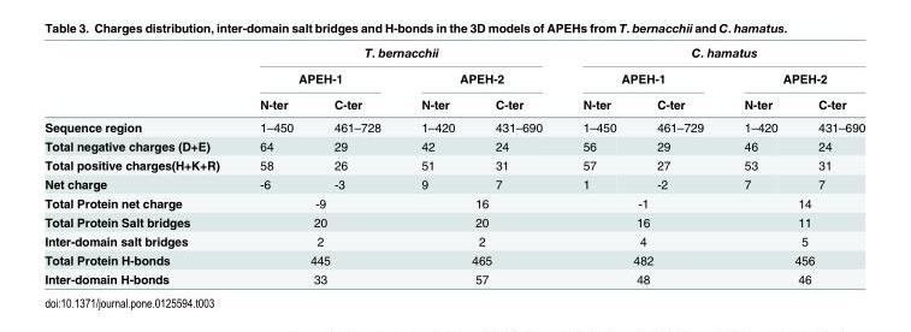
<table><thead><tr><td rowspan="3"></td><td colspan="4">T. bernacchii</td><td colspan="4">C. hamatus</td></tr><tr><td colspan="2">APEH-1</td><td colspan="2">APEH-2</td><td colspan="2">APEH-1</td><td colspan="2">APEH-2</td></tr><tr><td>N-ter</td><td>C-ter</td><td>N-ter</td><td>C-ter</td><td>N-ter</td><td>C-ter</td><td>N-ter</td><td>C-ter</td></tr></thead><tbody><tr><td>Sequence region</td><td>1–450</td><td>461–728</td><td>1–420</td><td>431–690</td><td>1–450</td><td>461–729</td><td>1–420</td><td>431–690</td></tr><tr><td>Total negative charges (D+E)</td><td>64</td><td>29</td><td>42</td><td>24</td><td>56</td><td>29</td><td>46</td><td>24</td></tr><tr><td>Total positive charges(H+K+R)</td><td>58</td><td>26</td><td>51</td><td>31</td><td>57</td><td>27</td><td>53</td><td>31</td></tr><tr><td>Net charge</td><td>-6</td><td>-3</td><td>9</td><td>7</td><td>1</td><td>-2</td><td>7</td><td>7</td></tr><tr><td>Total Protein net charge</td><td colspan="2">-9</td><td colspan="2">16</td><td colspan="2">-1</td><td colspan="2">14</td></tr><tr><td>Total Protein Salt bridges</td><td colspan="2">20</td><td colspan="2">20</td><td colspan="2">16</td><td colspan="2">11</td></tr><tr><td>Inter-domain salt bridges</td><td colspan="2">2</td><td colspan="2">2</td><td colspan="2">4</td><td colspan="2">5</td></tr><tr><td>Total Protein H-bonds</td><td colspan="2">445</td><td colspan="2">465</td><td colspan="2">482</td><td colspan="2">456</td></tr><tr><td>Inter-domain H-bonds</td><td colspan="2">33</td><td colspan="2">57</td><td colspan="2">48</td><td colspan="2">46</td></tr></tbody></table>